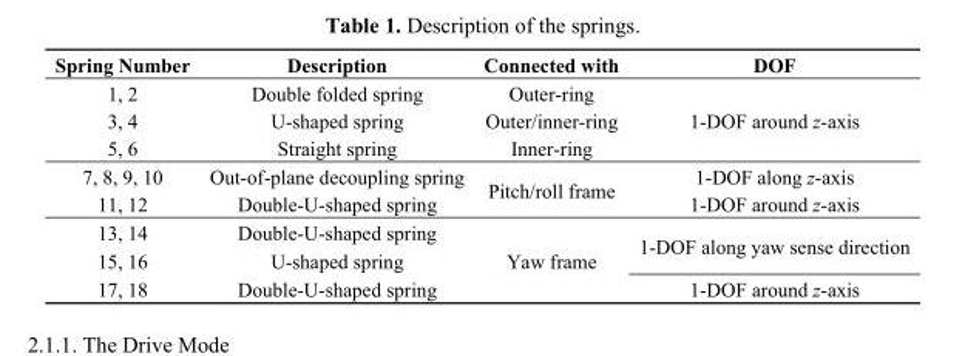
<table><thead><tr><td>Spring Number</td><td>Description</td><td>Connected with</td><td>DOF</td></tr></thead><tbody><tr><td>1, 2</td><td>Double folded spring</td><td>Outer-ring</td><td rowspan="3">1-DOF around z-axis</td></tr><tr><td>3, 4</td><td>U-shaped spring</td><td>Outer/inner-ring</td></tr><tr><td>5, 6</td><td>Straight spring</td><td>Inner-ring</td></tr><tr><td>7, 8, 9, 10</td><td>Out-of-plane decoupling spring</td><td rowspan="2">Pitch/roll frame</td><td>1-DOF along z-axis</td></tr><tr><td>11, 12</td><td>Double-U-shaped spring</td><td>1-DOF around z-axis</td></tr><tr><td>13, 14</td><td>Double-U-shaped spring</td><td rowspan="3">Yaw frame</td><td rowspan="2">1-DOF along yaw sense direction</td></tr><tr><td>15, 16</td><td>U-shaped spring</td></tr><tr><td>17, 18</td><td>Double-U-shaped spring</td><td>1-DOF around z-axis</td></tr></tbody></table>